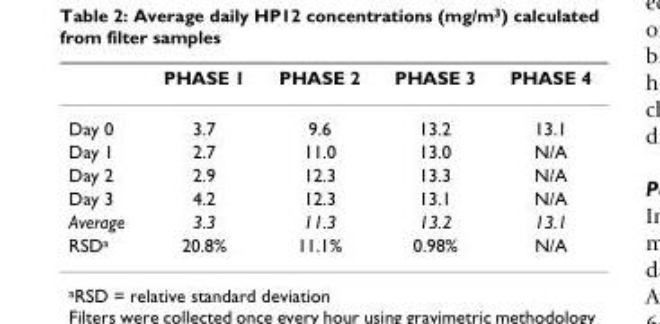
<table><thead><tr><td></td><td>PHASE 1</td><td>PHASE 2</td><td>PHASE 3</td><td>PHASE 4</td></tr></thead><tbody><tr><td>Day 0</td><td>3.7</td><td>9.6</td><td>13.2</td><td>13.1</td></tr><tr><td>Day 1</td><td>2.7</td><td>11.0</td><td>13.0</td><td>N/A</td></tr><tr><td>Day 2</td><td>2.9</td><td>12.3</td><td>13.3</td><td>N/A</td></tr><tr><td>Day 3</td><td>4.2</td><td>12.3</td><td>13.1</td><td>N/A</td></tr><tr><td>Average</td><td>3.3</td><td>11.3</td><td>13.2</td><td>13.1</td></tr><tr><td>RSD<sup>a</sup></td><td>20.8%</td><td>11.1%</td><td>0.98%</td><td>N/A</td></tr></tbody></table>